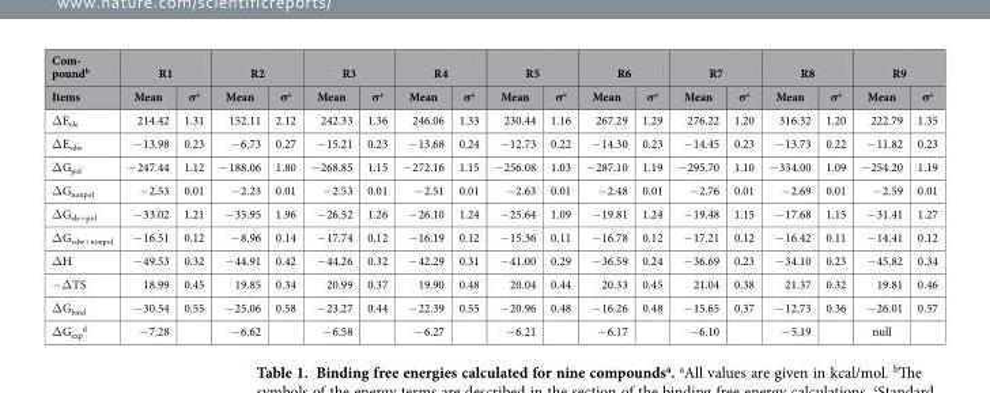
<table><thead><tr><td rowspan="2">Com- poundb Items</td><td colspan="2">R1</td><td colspan="2">R2</td><td colspan="2">R3</td><td colspan="2">R4</td><td colspan="2">R5</td><td colspan="2">R6</td><td colspan="2">R7</td><td colspan="2">R8</td><td colspan="2">R9</td></tr><tr><td>Mean</td><td>σ<sup>c</sup></td><td>Mean</td><td>σ<sup>c</sup></td><td>Mean</td><td>σ<sup>c</sup></td><td>Mean</td><td>σ<sup>c</sup></td><td>Mean</td><td>σ<sup>c</sup></td><td>Mean</td><td>σ<sup>c</sup></td><td>Mean</td><td>σ<sup>c</sup></td><td>Mean</td><td>σ<sup>c</sup></td><td>Mean</td><td>σ<sup>c</sup></td></tr></thead><tbody><tr><td>Δ E<sub>ele</sub></td><td>214.42</td><td>1.31</td><td>152.11</td><td>2.12</td><td>242.33</td><td>1.36</td><td>246.06</td><td>1.33</td><td>230.44</td><td>1.16</td><td>267.29</td><td>1.29</td><td>276.22</td><td>1.20</td><td>316.32</td><td>1.20</td><td>222.79</td><td>1.35</td></tr><tr><td>Δ E<sub>vdw</sub></td><td>− 13.98</td><td>0.23</td><td>− 6.73</td><td>0.27</td><td>− 15.21</td><td>0.23</td><td>− 13.68</td><td>0.24</td><td>− 12.73</td><td>0.22</td><td>− 14.30</td><td>0.23</td><td>− 14.45</td><td>0.23</td><td>− 13.73</td><td>0.22</td><td>− 11.82</td><td>0.23</td></tr><tr><td>Δ G<sub>pol</sub></td><td>− 247.44</td><td>1.12</td><td>− 188.06</td><td>1.80</td><td>− 268.85</td><td>1.15</td><td>− 272.16</td><td>1.15</td><td>− 256.08</td><td>1.03</td><td>− 287.10</td><td>1.19</td><td>− 295.70</td><td>1.10</td><td>− 334.00</td><td>1.09</td><td>− 254.20</td><td>1.19</td></tr><tr><td>Δ G<sub>nonpol</sub></td><td>− 2.53</td><td>0.01</td><td>− 2.23</td><td>0.01</td><td>− 2.53</td><td>0.01</td><td>− 2.51</td><td>0.01</td><td>− 2.63</td><td>0.01</td><td>− 2.48</td><td>0.01</td><td>− 2.76</td><td>0.01</td><td>− 2.69</td><td>0.01</td><td>− 2.59</td><td>0.01</td></tr><tr><td>Δ G<sub>ele+pol</sub></td><td>− 33.02</td><td>1.21</td><td>− 35.95</td><td>1.96</td><td>− 26.52</td><td>1.26</td><td>− 26.10</td><td>1.24</td><td>− 25.64</td><td>1.09</td><td>− 19.81</td><td>1.24</td><td>− 19.48</td><td>1.15</td><td>− 17.68</td><td>1.15</td><td>− 31.41</td><td>1.27</td></tr><tr><td>Δ G<sub>vdw+nonpol</sub></td><td>− 16.51</td><td>0.12</td><td>− 8.96</td><td>0.14</td><td>− 17.74</td><td>0.12</td><td>− 16.19</td><td>0.12</td><td>− 15.36</td><td>0.11</td><td>− 16.78</td><td>0.12</td><td>− 17.21</td><td>0.12</td><td>− 16.42</td><td>0.11</td><td>− 14.41</td><td>0.12</td></tr><tr><td>Δ H</td><td>− 49.53</td><td>0.32</td><td>− 44.91</td><td>0.42</td><td>− 44.26</td><td>0.32</td><td>− 42.29</td><td>0.31</td><td>− 41.00</td><td>0.29</td><td>− 36.59</td><td>0.24</td><td>− 36.69</td><td>0.23</td><td>− 34.10</td><td>0.23</td><td>− 45.82</td><td>0.34</td></tr><tr><td>− Δ TS</td><td>18.99</td><td>0.45</td><td>19.85</td><td>0.34</td><td>20.99</td><td>0.37</td><td>19.90</td><td>0.48</td><td>20.04</td><td>0.44</td><td>20.33</td><td>0.45</td><td>21.04</td><td>0.38</td><td>21.37</td><td>0.32</td><td>19.81</td><td>0.46</td></tr><tr><td>Δ G<sub>bind</sub></td><td>− 30.54</td><td>0.55</td><td>− 25.06</td><td>0.58</td><td>− 23.27</td><td>0.44</td><td>− 22.39</td><td>0.55</td><td>− 20.96</td><td>0.48</td><td>− 16.26</td><td>0.48</td><td>− 15.65</td><td>0.37</td><td>− 12.73</td><td>0.36</td><td>− 26.01</td><td>0.57</td></tr><tr><td>Δ G<sub>exp</sub> <sup>d</sup></td><td>− 7.28</td><td></td><td>− 6.62</td><td></td><td>− 6.58</td><td></td><td>− 6.27</td><td></td><td>− 6.21</td><td></td><td>− 6.17</td><td></td><td>− 6.10</td><td></td><td>− 5.19</td><td></td><td>null</td><td></td></tr></tbody></table>